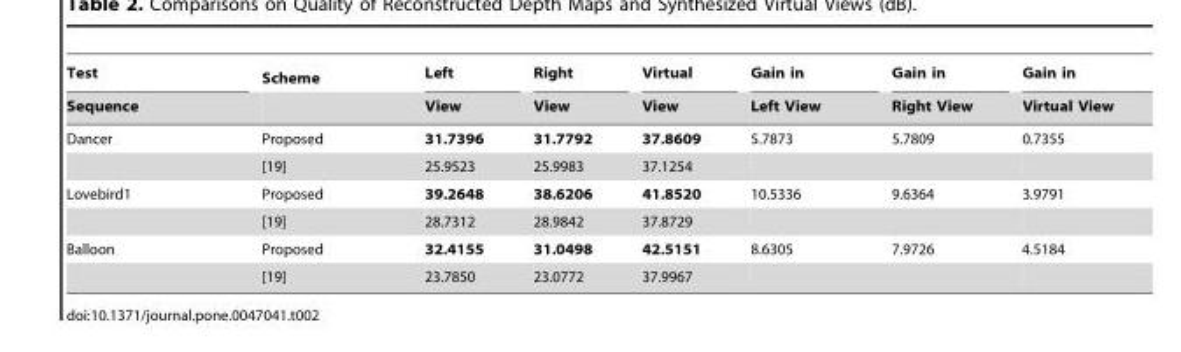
<table><thead><tr><td rowspan="2">Test Sequence</td><td rowspan="2">Scheme</td><td rowspan="2">Left View</td><td rowspan="2">Right View</td><td rowspan="2">Virtual View</td><td rowspan="2">Gain in Left View</td><td rowspan="2">Gain in Right View</td><td rowspan="2">Gain in Virtual View</td></tr><tr></tr></thead><tbody><tr><td rowspan="2">Dancer</td><td>Proposed</td><td>31.7396</td><td>31.7792</td><td>37.8609</td><td>5.7873</td><td>5.7809</td><td>0.7355</td></tr><tr><td>[19]</td><td>25.9523</td><td>25.9983</td><td>37.1254</td><td></td><td></td><td></td></tr><tr><td rowspan="2">Lovebird1</td><td>Proposed</td><td>39.2648</td><td>38.6206</td><td>41.8520</td><td>10.5336</td><td>9.6364</td><td>3.9791</td></tr><tr><td>[19]</td><td>28.7312</td><td>28.9842</td><td>37.8729</td><td></td><td></td><td></td></tr><tr><td rowspan="2">Balloon</td><td>Proposed</td><td>32.4155</td><td>31.0498</td><td>42.5151</td><td>8.6305</td><td>7.9726</td><td>4.5184</td></tr><tr><td>[19]</td><td>23.7850</td><td>23.0772</td><td>37.9967</td><td></td><td></td><td></td></tr></tbody></table>